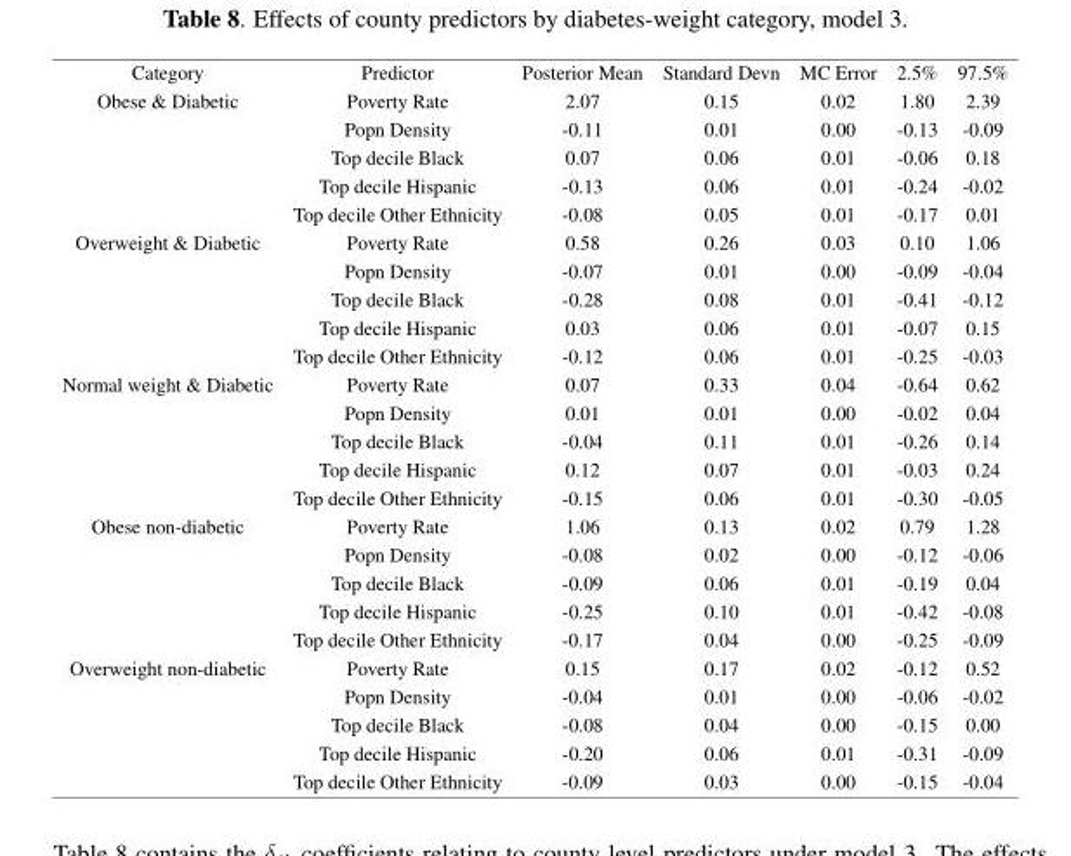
<table><thead><tr><td>Category</td><td>Predictor</td><td>Posterior Mean</td><td>Standard Devn</td><td>MC Error</td><td>2.5%</td><td>97.5%</td></tr></thead><tbody><tr><td rowspan="5">Obese &amp; Diabetic</td><td>Poverty Rate</td><td>2.07</td><td>0.15</td><td>0.02</td><td>1.80</td><td>2.39</td></tr><tr><td>Popn Density</td><td>-0.11</td><td>0.01</td><td>0.00</td><td>-0.13</td><td>-0.09</td></tr><tr><td>Top decile Black</td><td>0.07</td><td>0.06</td><td>0.01</td><td>-0.06</td><td>0.18</td></tr><tr><td>Top decile Hispanic</td><td>-0.13</td><td>0.06</td><td>0.01</td><td>-0.24</td><td>-0.02</td></tr><tr><td>Top decile Other Ethnicity</td><td>-0.08</td><td>0.05</td><td>0.01</td><td>-0.17</td><td>0.01</td></tr><tr><td rowspan="5">Overweight &amp; Diabetic</td><td>Poverty Rate</td><td>0.58</td><td>0.26</td><td>0.03</td><td>0.10</td><td>1.06</td></tr><tr><td>Popn Density</td><td>-0.07</td><td>0.01</td><td>0.00</td><td>-0.09</td><td>-0.04</td></tr><tr><td>Top decile Black</td><td>-0.28</td><td>0.08</td><td>0.01</td><td>-0.41</td><td>-0.12</td></tr><tr><td>Top decile Hispanic</td><td>0.03</td><td>0.06</td><td>0.01</td><td>-0.07</td><td>0.15</td></tr><tr><td>Top decile Other Ethnicity</td><td>-0.12</td><td>0.06</td><td>0.01</td><td>-0.25</td><td>-0.03</td></tr><tr><td rowspan="5">Normal weight &amp; Diabetic</td><td>Poverty Rate</td><td>0.07</td><td>0.33</td><td>0.04</td><td>-0.64</td><td>0.62</td></tr><tr><td>Popn Density</td><td>0.01</td><td>0.01</td><td>0.00</td><td>-0.02</td><td>0.04</td></tr><tr><td>Top decile Black</td><td>-0.04</td><td>0.11</td><td>0.01</td><td>-0.26</td><td>0.14</td></tr><tr><td>Top decile Hispanic</td><td>0.12</td><td>0.07</td><td>0.01</td><td>-0.03</td><td>0.24</td></tr><tr><td>Top decile Other Ethnicity</td><td>-0.15</td><td>0.06</td><td>0.01</td><td>-0.30</td><td>-0.05</td></tr><tr><td rowspan="5">Obese non-diabetic</td><td>Poverty Rate</td><td>1.06</td><td>0.13</td><td>0.02</td><td>0.79</td><td>1.28</td></tr><tr><td>Popn Density</td><td>-0.08</td><td>0.02</td><td>0.00</td><td>-0.12</td><td>-0.06</td></tr><tr><td>Top decile Black</td><td>-0.09</td><td>0.06</td><td>0.01</td><td>-0.19</td><td>0.04</td></tr><tr><td>Top decile Hispanic</td><td>-0.25</td><td>0.10</td><td>0.01</td><td>-0.42</td><td>-0.08</td></tr><tr><td>Top decile Other Ethnicity</td><td>-0.17</td><td>0.04</td><td>0.00</td><td>-0.25</td><td>-0.09</td></tr><tr><td rowspan="5">Overweight non-diabetic</td><td>Poverty Rate</td><td>0.15</td><td>0.17</td><td>0.02</td><td>-0.12</td><td>0.52</td></tr><tr><td>Popn Density</td><td>-0.04</td><td>0.01</td><td>0.00</td><td>-0.06</td><td>-0.02</td></tr><tr><td>Top decile Black</td><td>-0.08</td><td>0.04</td><td>0.00</td><td>-0.15</td><td>0.00</td></tr><tr><td>Top decile Hispanic</td><td>-0.20</td><td>0.06</td><td>0.01</td><td>-0.31</td><td>-0.09</td></tr><tr><td>Top decile Other Ethnicity</td><td>-0.09</td><td>0.03</td><td>0.00</td><td>-0.15</td><td>-0.04</td></tr></tbody></table>